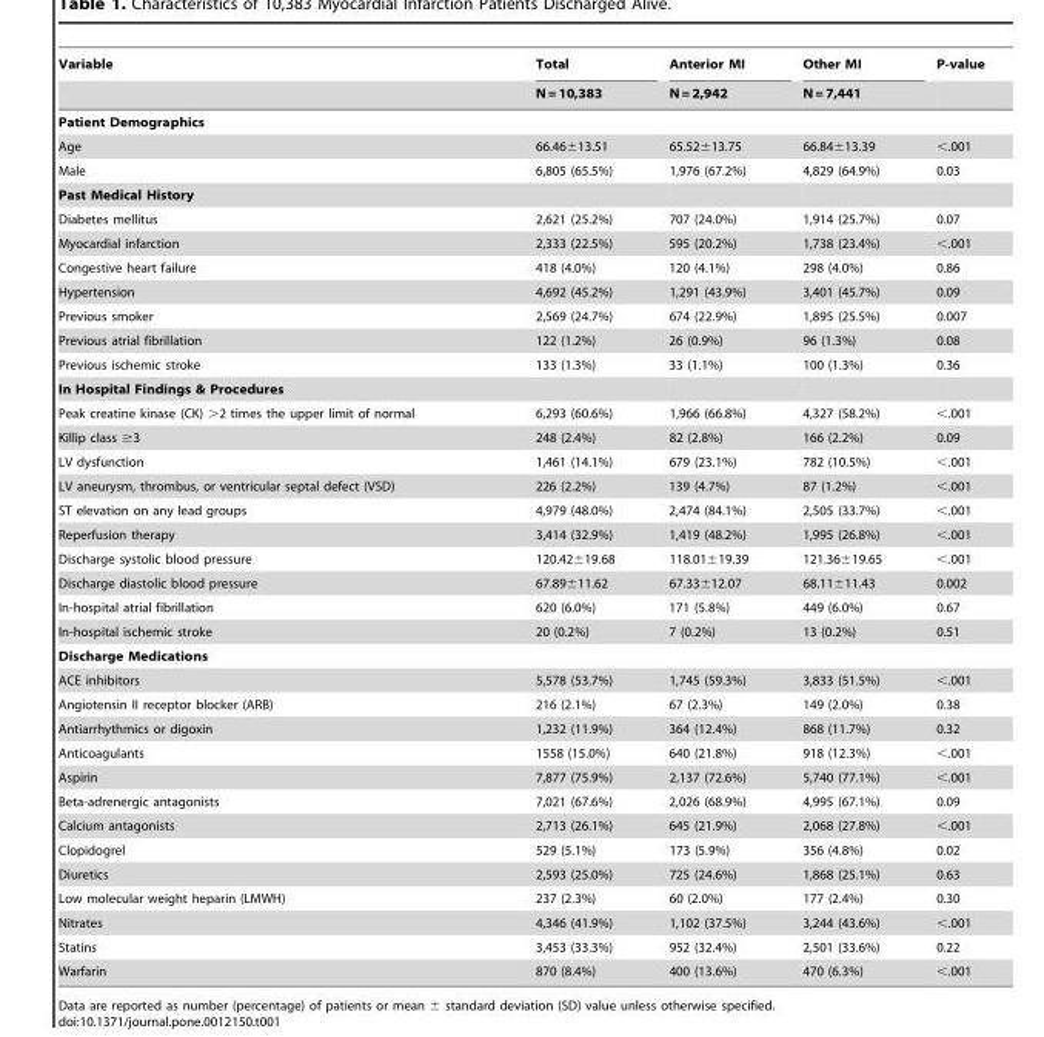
<table><thead><tr><td rowspan="2">Variable</td><td rowspan="2">Total N = 10,383</td><td rowspan="2">Anterior MI N = 2,942</td><td rowspan="2">Other MI N = 7,441</td><td rowspan="2">P-value</td></tr><tr></tr></thead><tbody><tr><td colspan="5">Patient Demographics</td></tr><tr><td>Age</td><td>66.46±13.51</td><td>65.52±13.75</td><td>66.84±13.39</td><td>&lt;.001</td></tr><tr><td>Male</td><td>6,805 (65.5%)</td><td>1,976 (67.2%)</td><td>4,829 (64.9%)</td><td>0.03</td></tr><tr><td colspan="5">Past Medical History</td></tr><tr><td>Diabetes mellitus</td><td>2,621 (25.2%)</td><td>707 (24.0%)</td><td>1,914 (25.7%)</td><td>0.07</td></tr><tr><td>Myocardial infarction</td><td>2,333 (22.5%)</td><td>595 (20.2%)</td><td>1,738 (23.4%)</td><td>&lt;.001</td></tr><tr><td>Congestive heart failure</td><td>418 (4.0%)</td><td>120 (4.1%)</td><td>298 (4.0%)</td><td>0.86</td></tr><tr><td>Hypertension</td><td>4,692 (45.2%)</td><td>1,291 (43.9%)</td><td>3,401 (45.7%)</td><td>0.09</td></tr><tr><td>Previous smoker</td><td>2,569 (24.7%)</td><td>674 (22.9%)</td><td>1,895 (25.5%)</td><td>0.007</td></tr><tr><td>Previous atrial fibrillation</td><td>122 (1.2%)</td><td>26 (0.9%)</td><td>96 (1.3%)</td><td>0.08</td></tr><tr><td>Previous ischemic stroke</td><td>133 (1.3%)</td><td>33 (1.1%)</td><td>100 (1.3%)</td><td>0.36</td></tr><tr><td colspan="5">In Hospital Findings &amp; Procedures</td></tr><tr><td>Peak creatine kinase (CK) &gt;2 times the upper limit of normal</td><td>6,293 (60.6%)</td><td>1,966 (66.8%)</td><td>4,327 (58.2%)</td><td>&lt;.001</td></tr><tr><td>Killip class ≥3</td><td>248 (2.4%)</td><td>82 (2.8%)</td><td>166 (2.2%)</td><td>0.09</td></tr><tr><td>LV dysfunction</td><td>1,461 (14.1%)</td><td>679 (23.1%)</td><td>782 (10.5%)</td><td>&lt;.001</td></tr><tr><td>LV aneurysm, thrombus, or ventricular septal defect (VSD)</td><td>226 (2.2%)</td><td>139 (4.7%)</td><td>87 (1.2%)</td><td>&lt;.001</td></tr><tr><td>ST elevation on any lead groups</td><td>4,979 (48.0%)</td><td>2,474 (84.1%)</td><td>2,505 (33.7%)</td><td>&lt;.001</td></tr><tr><td>Reperfusion therapy</td><td>3,414 (32.9%)</td><td>1,419 (48.2%)</td><td>1,995 (26.8%)</td><td>&lt;.001</td></tr><tr><td>Discharge systolic blood pressure</td><td>120.42±19.68</td><td>118.01±19.39</td><td>121.36±19.65</td><td>&lt;.001</td></tr><tr><td>Discharge diastolic blood pressure</td><td>67.89±11.62</td><td>67.33±12.07</td><td>68.11±11.43</td><td>0.002</td></tr><tr><td>In-hospital atrial fibrillation</td><td>620 (6.0%)</td><td>171 (5.8%)</td><td>449 (6.0%)</td><td>0.67</td></tr><tr><td>In-hospital ischemic stroke</td><td>20 (0.2%)</td><td>7 (0.2%)</td><td>13 (0.2%)</td><td>0.51</td></tr><tr><td colspan="5">Discharge Medications</td></tr><tr><td>ACE inhibitors</td><td>5,578 (53.7%)</td><td>1,745 (59.3%)</td><td>3,833 (51.5%)</td><td>&lt;.001</td></tr><tr><td>Angiotensin II receptor blocker (ARB)</td><td>216 (2.1%)</td><td>67 (2.3%)</td><td>149 (2.0%)</td><td>0.38</td></tr><tr><td>Antiarrhythmics or digoxin</td><td>1,232 (11.9%)</td><td>364 (12.4%)</td><td>868 (11.7%)</td><td>0.32</td></tr><tr><td>Anticoagulants</td><td>1558 (15.0%)</td><td>640 (21.8%)</td><td>918 (12.3%)</td><td>&lt;.001</td></tr><tr><td>Aspirin</td><td>7,877 (75.9%)</td><td>2,137 (72.6%)</td><td>5,740 (77.1%)</td><td>&lt;.001</td></tr><tr><td>Beta-adrenergic antagonists</td><td>7,021 (67.6%)</td><td>2,026 (68.9%)</td><td>4,995 (67.1%)</td><td>0.09</td></tr><tr><td>Calcium antagonists</td><td>2,713 (26.1%)</td><td>645 (21.9%)</td><td>2,068 (27.8%)</td><td>&lt;.001</td></tr><tr><td>Clopidogrel</td><td>529 (5.1%)</td><td>173 (5.9%)</td><td>356 (4.8%)</td><td>0.02</td></tr><tr><td>Diuretics</td><td>2,593 (25.0%)</td><td>725 (24.6%)</td><td>1,868 (25.1%)</td><td>0.63</td></tr><tr><td>Low molecular weight heparin (LMWH)</td><td>237 (2.3%)</td><td>60 (2.0%)</td><td>177 (2.4%)</td><td>0.30</td></tr><tr><td>Nitrates</td><td>4,346 (41.9%)</td><td>1,102 (37.5%)</td><td>3,244 (43.6%)</td><td>&lt;.001</td></tr><tr><td>Statins</td><td>3,453 (33.3%)</td><td>952 (32.4%)</td><td>2,501 (33.6%)</td><td>0.22</td></tr><tr><td>Warfarin</td><td>870 (8.4%)</td><td>400 (13.6%)</td><td>470 (6.3%)</td><td>&lt;.001</td></tr></tbody></table>